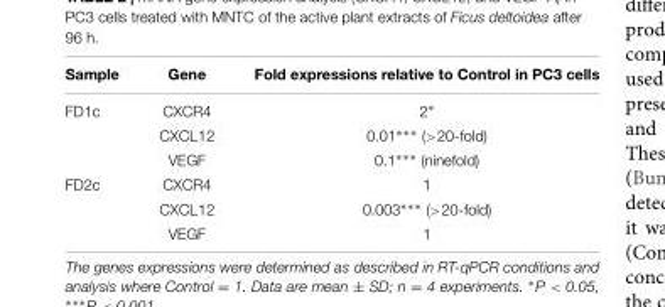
<table><thead><tr><td>Sample</td><td>Gene</td><td>Fold expressions relative to Control in PC3 cells</td></tr></thead><tbody><tr><td rowspan="3">FD1c</td><td>CXCR4</td><td>2∗</td></tr><tr><td>CXCL12</td><td>0.01∗∗∗ (&gt;20-fold)</td></tr><tr><td>VEGF</td><td>0.1∗∗∗ (ninefold)</td></tr><tr><td rowspan="3">FD2c</td><td>CXCR4</td><td>1</td></tr><tr><td>CXCL12</td><td>0.003∗∗∗ (&gt;20-fold)</td></tr><tr><td>VEGF</td><td>1</td></tr></tbody></table>